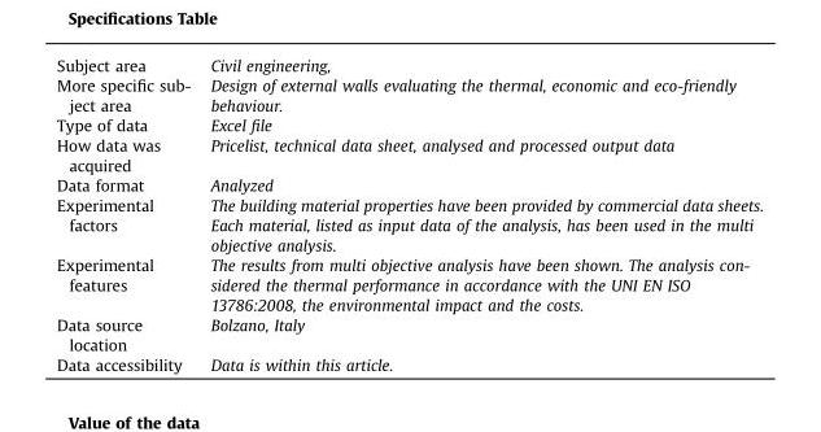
<table><tbody><tr><td>Subject area</td><td>Civil engineering,</td></tr><tr><td>More specific sub- ject area</td><td>Design of external walls evaluating the thermal, economic and eco-friendly behaviour.</td></tr><tr><td>Type of data</td><td>Excel file</td></tr><tr><td>How data was acquired</td><td>Pricelist, technical data sheet, analysed and processed output data</td></tr><tr><td>Data format</td><td>Analyzed</td></tr><tr><td>Experimental factors</td><td>The building material properties have been provided by commercial data sheets. Each material, listed as input data of the analysis, has been used in the multi objective analysis.</td></tr><tr><td>Experimental features</td><td>The results from multi objective analysis have been shown. The analysis con- sidered the thermal performance in accordance with the UNI EN ISO 13786:2008, the environmental impact and the costs.</td></tr><tr><td>Data source location</td><td>Bolzano, Italy</td></tr><tr><td>Data accessibility</td><td>Data is within this article.</td></tr></tbody></table>